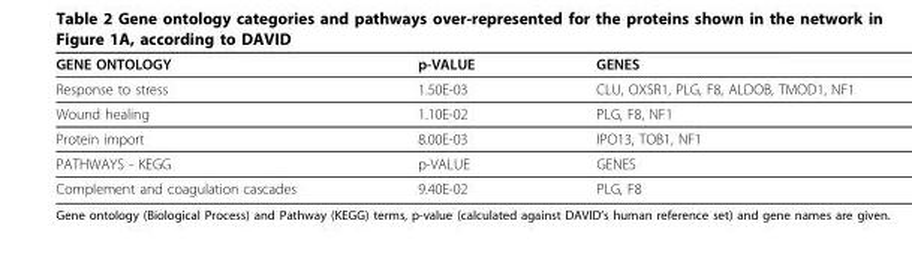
<table><thead><tr><td>GENE ONTOLOGY</td><td>p-VALUE</td><td>GENES</td></tr></thead><tbody><tr><td>Response to stress</td><td>1.50E-03</td><td>CLU, OXSR1, PLG, F8, ALDOB, TMOD1, NF1</td></tr><tr><td>Wound healing</td><td>1.10E-02</td><td>PLG, F8, NF1</td></tr><tr><td>Protein import</td><td>8.00E-03</td><td>IPO13, TOB1, NF1</td></tr><tr><td>PATHWAYS - KEGG</td><td>p-VALUE</td><td>GENES</td></tr><tr><td>Complement and coagulation cascades</td><td>9.40E-02</td><td>PLG, F8</td></tr></tbody></table>